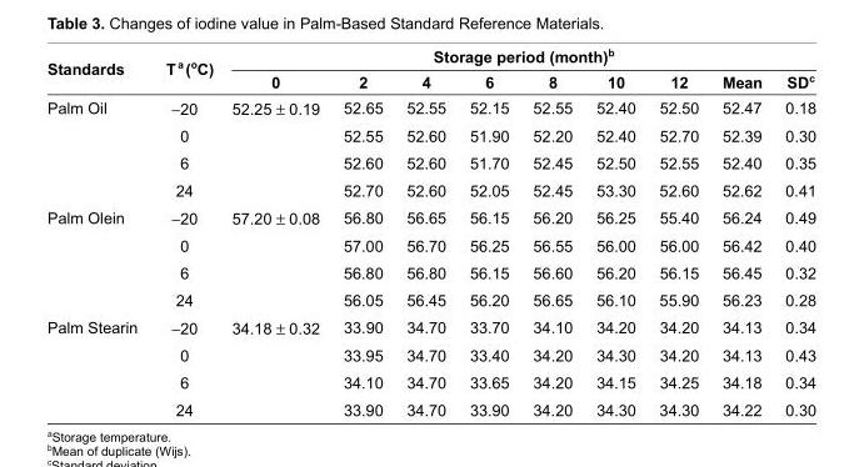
<table><thead><tr><td rowspan="2">Standards</td><td rowspan="2">T <sup>a</sup> (°C)</td><td colspan="9">Storage period (month)<sup>b</sup></td></tr><tr><td>0</td><td>2</td><td>4</td><td>6</td><td>8</td><td>10</td><td>12</td><td>Mean</td><td>SD<sup>c</sup></td></tr></thead><tbody><tr><td rowspan="4">Palm Oil</td><td>−20</td><td>52.25 ± 0.19</td><td>52.65</td><td>52.55</td><td>52.15</td><td>52.55</td><td>52.40</td><td>52.50</td><td>52.47</td><td>0.18</td></tr><tr><td>0</td><td></td><td>52.55</td><td>52.60</td><td>51.90</td><td>52.20</td><td>52.40</td><td>52.70</td><td>52.39</td><td>0.30</td></tr><tr><td>6</td><td></td><td>52.60</td><td>52.60</td><td>51.70</td><td>52.45</td><td>52.50</td><td>52.55</td><td>52.40</td><td>0.35</td></tr><tr><td>24</td><td></td><td>52.70</td><td>52.60</td><td>52.05</td><td>52.45</td><td>53.30</td><td>52.60</td><td>52.62</td><td>0.41</td></tr><tr><td rowspan="4">Palm Olein</td><td>−20</td><td>57.20 ± 0.08</td><td>56.80</td><td>56.65</td><td>56.15</td><td>56.20</td><td>56.25</td><td>55.40</td><td>56.24</td><td>0.49</td></tr><tr><td>0</td><td></td><td>57.00</td><td>56.70</td><td>56.25</td><td>56.55</td><td>56.00</td><td>56.00</td><td>56.42</td><td>0.40</td></tr><tr><td>6</td><td></td><td>56.80</td><td>56.80</td><td>56.15</td><td>56.60</td><td>56.20</td><td>56.15</td><td>56.45</td><td>0.32</td></tr><tr><td>24</td><td></td><td>56.05</td><td>56.45</td><td>56.20</td><td>56.65</td><td>56.10</td><td>55.90</td><td>56.23</td><td>0.28</td></tr><tr><td rowspan="4">Palm Stearin</td><td>−20</td><td>34.18 ± 0.32</td><td>33.90</td><td>34.70</td><td>33.70</td><td>34.10</td><td>34.20</td><td>34.20</td><td>34.13</td><td>0.34</td></tr><tr><td>0</td><td></td><td>33.95</td><td>34.70</td><td>33.40</td><td>34.20</td><td>34.30</td><td>34.20</td><td>34.13</td><td>0.43</td></tr><tr><td>6</td><td></td><td>34.10</td><td>34.70</td><td>33.65</td><td>34.20</td><td>34.15</td><td>34.25</td><td>34.18</td><td>0.34</td></tr><tr><td>24</td><td></td><td>33.90</td><td>34.70</td><td>33.90</td><td>34.20</td><td>34.30</td><td>34.30</td><td>34.22</td><td>0.30</td></tr></tbody></table>